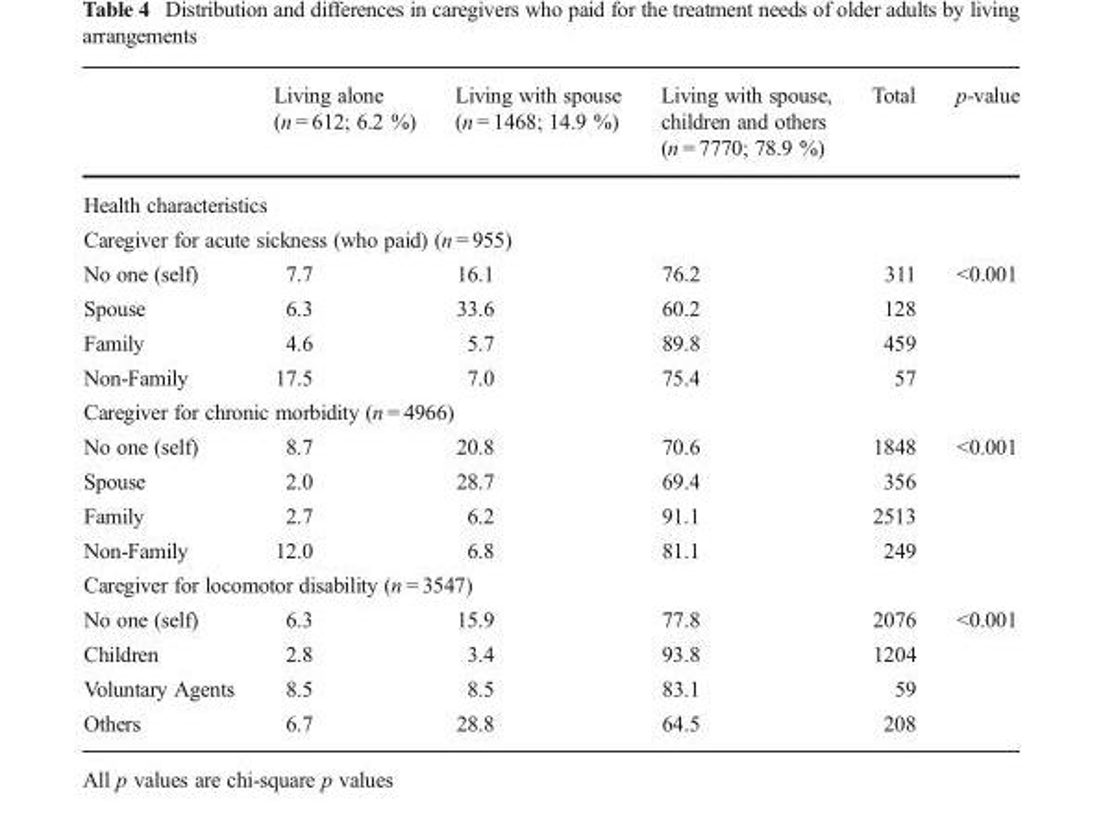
<table><thead><tr><td></td><td>Living alone (n = 612; 6.2 %)</td><td>Living with spouse (n = 1468; 14.9 %)</td><td>Living with spouse, children and others (n = 7770; 78.9 %)</td><td>Total</td><td>p-value</td></tr></thead><tbody><tr><td colspan="6">Health characteristics</td></tr><tr><td colspan="6">Caregiver for acute sickness (who paid) (n = 955)</td></tr><tr><td>No one (self)</td><td>7.7</td><td>16.1</td><td>76.2</td><td>311</td><td rowspan="4">&lt;0.001</td></tr><tr><td>Spouse</td><td>6.3</td><td>33.6</td><td>60.2</td><td>128</td></tr><tr><td>Family</td><td>4.6</td><td>5.7</td><td>89.8</td><td>459</td></tr><tr><td>Non-Family</td><td>17.5</td><td>7.0</td><td>75.4</td><td>57</td></tr><tr><td colspan="6">Caregiver for chronic morbidity (n = 4966)</td></tr><tr><td>No one (self)</td><td>8.7</td><td>20.8</td><td>70.6</td><td>1848</td><td rowspan="4">&lt;0.001</td></tr><tr><td>Spouse</td><td>2.0</td><td>28.7</td><td>69.4</td><td>356</td></tr><tr><td>Family</td><td>2.7</td><td>6.2</td><td>91.1</td><td>2513</td></tr><tr><td>Non-Family</td><td>12.0</td><td>6.8</td><td>81.1</td><td>249</td></tr><tr><td colspan="6">Caregiver for locomotor disability (n = 3547)</td></tr><tr><td>No one (self)</td><td>6.3</td><td>15.9</td><td>77.8</td><td>2076</td><td rowspan="4">&lt;0.001</td></tr><tr><td>Children</td><td>2.8</td><td>3.4</td><td>93.8</td><td>1204</td></tr><tr><td>Voluntary Agents</td><td>8.5</td><td>8.5</td><td>83.1</td><td>59</td></tr><tr><td>Others</td><td>6.7</td><td>28.8</td><td>64.5</td><td>208</td></tr></tbody></table>